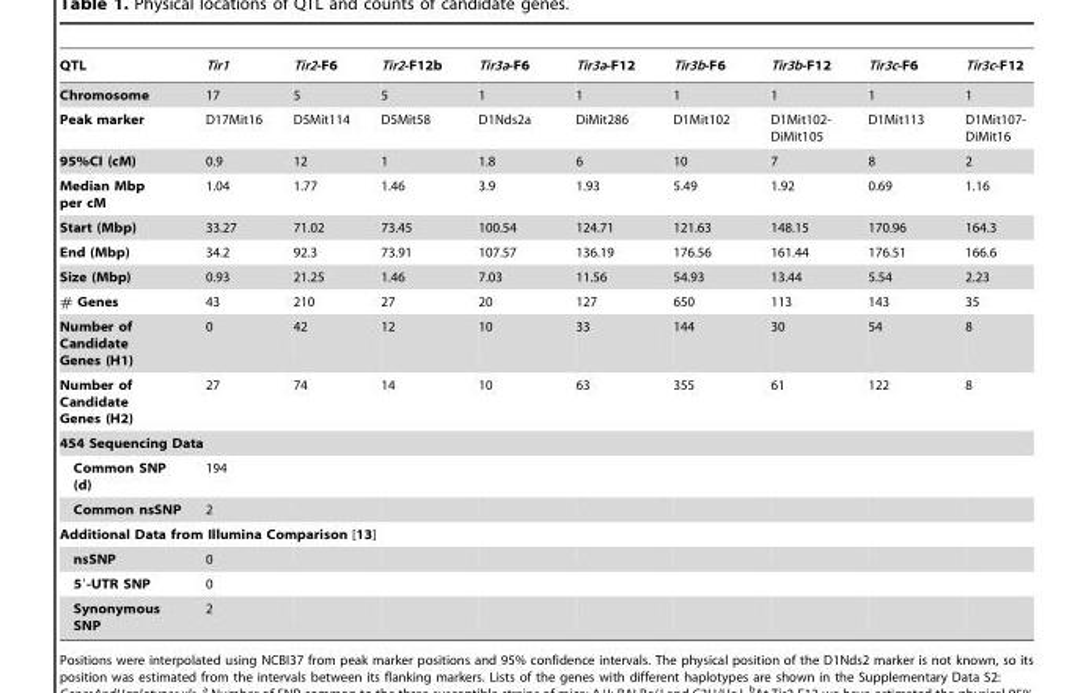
<table><thead><tr><td>QTL</td><td>Tir1</td><td>Tir2-F6</td><td>Tir2-F12b</td><td>Tir3a-F6</td><td>Tir3a-F12</td><td>Tir3b-F6</td><td>Tir3b-F12</td><td>Tir3c-F6</td><td>Tir3c-F12</td></tr></thead><tbody><tr><td>Chromosome</td><td>17</td><td>5</td><td>5</td><td>1</td><td>1</td><td>1</td><td>1</td><td>1</td><td>1</td></tr><tr><td>Peak marker</td><td>D17Mit16</td><td>D5Mit114</td><td>D5Mit58</td><td>D1Nds2a</td><td>DiMit286</td><td>D1Mit102</td><td>D1Mit102- DiMit105</td><td>D1Mit113</td><td>D1Mit107- DiMit16</td></tr><tr><td>95%CI (cM)</td><td>0.9</td><td>12</td><td>1</td><td>1.8</td><td>6</td><td>10</td><td>7</td><td>8</td><td>2</td></tr><tr><td>Median Mbp per cM</td><td>1.04</td><td>1.77</td><td>1.46</td><td>3.9</td><td>1.93</td><td>5.49</td><td>1.92</td><td>0.69</td><td>1.16</td></tr><tr><td>Start (Mbp)</td><td>33.27</td><td>71.02</td><td>73.45</td><td>100.54</td><td>124.71</td><td>121.63</td><td>148.15</td><td>170.96</td><td>164.3</td></tr><tr><td>End (Mbp)</td><td>34.2</td><td>92.3</td><td>73.91</td><td>107.57</td><td>136.19</td><td>176.56</td><td>161.44</td><td>176.51</td><td>166.6</td></tr><tr><td>Size (Mbp)</td><td>0.93</td><td>21.25</td><td>1.46</td><td>7.03</td><td>11.56</td><td>54.93</td><td>13.44</td><td>5.54</td><td>2.23</td></tr><tr><td># Genes</td><td>43</td><td>210</td><td>27</td><td>20</td><td>127</td><td>650</td><td>113</td><td>143</td><td>35</td></tr><tr><td>Number of Candidate Genes (H1)</td><td>0</td><td>42</td><td>12</td><td>10</td><td>33</td><td>144</td><td>30</td><td>54</td><td>8</td></tr><tr><td>Number of Candidate Genes (H2)</td><td>27</td><td>74</td><td>14</td><td>10</td><td>63</td><td>355</td><td>61</td><td>122</td><td>8</td></tr><tr><td colspan="10">454 Sequencing Data</td></tr><tr><td>Common SNP (d)</td><td>194</td><td></td><td></td><td></td><td></td><td></td><td></td><td></td><td></td></tr><tr><td>Common nsSNP</td><td>2</td><td></td><td></td><td></td><td></td><td></td><td></td><td></td><td></td></tr><tr><td colspan="10">Additional Data from Illumina Comparison [13]</td></tr><tr><td>nsSNP</td><td>0</td><td></td><td></td><td></td><td></td><td></td><td></td><td></td><td></td></tr><tr><td>5′-UTR SNP</td><td>0</td><td></td><td></td><td></td><td></td><td></td><td></td><td></td><td></td></tr><tr><td>Synonymous SNP</td><td>2</td><td></td><td></td><td></td><td></td><td></td><td></td><td></td><td></td></tr></tbody></table>